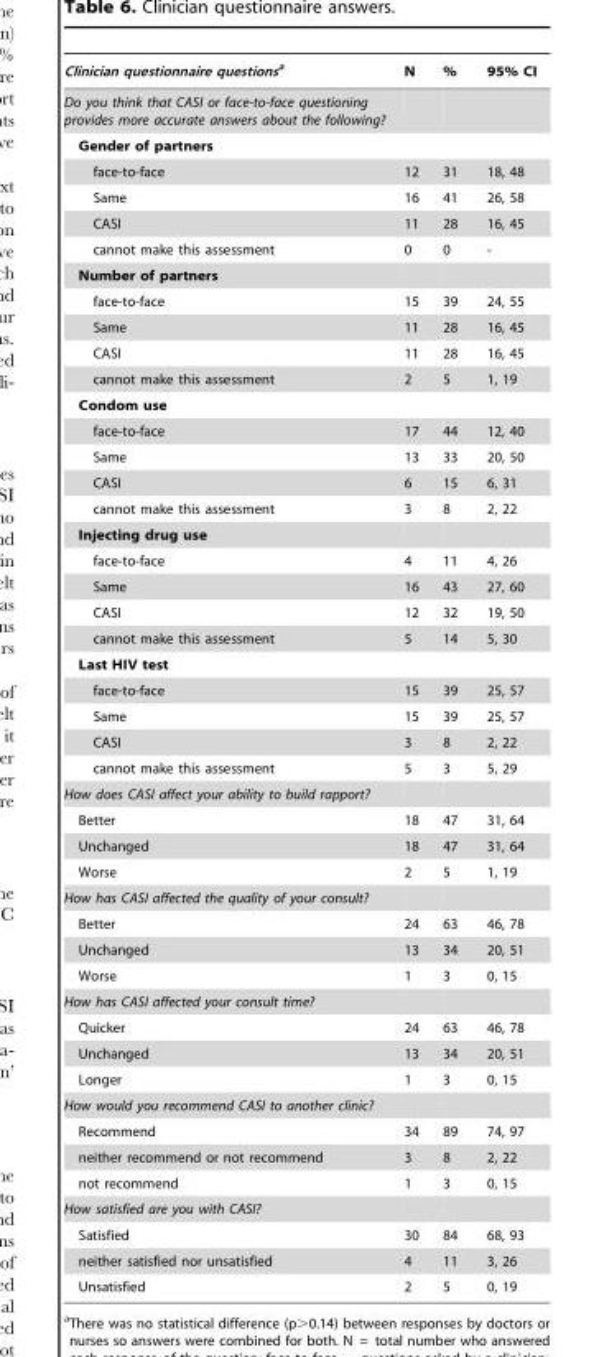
<table><thead><tr><td>Clinician questionnaire questionsa</td><td>N</td><td>%</td><td>95% CI</td></tr></thead><tbody><tr><td colspan="4">Do you think that CASI or face-to-face questioning provides more accurate answers about the following?</td></tr><tr><td colspan="4">Gender of partners</td></tr><tr><td>face-to-face</td><td>12</td><td>31</td><td>18, 48</td></tr><tr><td>Same</td><td>16</td><td>41</td><td>26, 58</td></tr><tr><td>CASI</td><td>11</td><td>28</td><td>16, 45</td></tr><tr><td>cannot make this assessment</td><td>0</td><td>0</td><td>-</td></tr><tr><td colspan="4">Number of partners</td></tr><tr><td>face-to-face</td><td>15</td><td>39</td><td>24, 55</td></tr><tr><td>Same</td><td>11</td><td>28</td><td>16, 45</td></tr><tr><td>CASI</td><td>11</td><td>28</td><td>16, 45</td></tr><tr><td>cannot make this assessment</td><td>2</td><td>5</td><td>1, 19</td></tr><tr><td colspan="4">Condom use</td></tr><tr><td>face-to-face</td><td>17</td><td>44</td><td>12, 40</td></tr><tr><td>Same</td><td>13</td><td>33</td><td>20, 50</td></tr><tr><td>CASI</td><td>6</td><td>15</td><td>6, 31</td></tr><tr><td>cannot make this assessment</td><td>3</td><td>8</td><td>2, 22</td></tr><tr><td colspan="4">Injecting drug use</td></tr><tr><td>face-to-face</td><td>4</td><td>11</td><td>4, 26</td></tr><tr><td>Same</td><td>16</td><td>43</td><td>27, 60</td></tr><tr><td>CASI</td><td>12</td><td>32</td><td>19, 50</td></tr><tr><td>cannot make this assessment</td><td>5</td><td>14</td><td>5, 30</td></tr><tr><td colspan="4">Last HIV test</td></tr><tr><td>face-to-face</td><td>15</td><td>39</td><td>25, 57</td></tr><tr><td>Same</td><td>15</td><td>39</td><td>25, 57</td></tr><tr><td>CASI</td><td>3</td><td>8</td><td>2, 22</td></tr><tr><td>cannot make this assessment</td><td>5</td><td>3</td><td>5, 29</td></tr><tr><td colspan="4">How does CASI affect your ability to build rapport?</td></tr><tr><td>Better</td><td>18</td><td>47</td><td>31, 64</td></tr><tr><td>Unchanged</td><td>18</td><td>47</td><td>31, 64</td></tr><tr><td>Worse</td><td>2</td><td>5</td><td>1, 19</td></tr><tr><td colspan="4">How has CASI affected the quality of your consult?</td></tr><tr><td>Better</td><td>24</td><td>63</td><td>46, 78</td></tr><tr><td>Unchanged</td><td>13</td><td>34</td><td>20, 51</td></tr><tr><td>Worse</td><td>1</td><td>3</td><td>0, 15</td></tr><tr><td colspan="4">How has CASI affected your consult time?</td></tr><tr><td>Quicker</td><td>24</td><td>63</td><td>46, 78</td></tr><tr><td>Unchanged</td><td>13</td><td>34</td><td>20, 51</td></tr><tr><td>Longer</td><td>1</td><td>3</td><td>0, 15</td></tr><tr><td colspan="4">How would you recommend CASI to another clinic?</td></tr><tr><td>Recommend</td><td>34</td><td>89</td><td>74, 97</td></tr><tr><td>neither recommend or not recommend</td><td>3</td><td>8</td><td>2, 22</td></tr><tr><td>not recommend</td><td>1</td><td>3</td><td>0, 15</td></tr><tr><td colspan="4">How satisfied are you with CASI?</td></tr><tr><td>Satisfied</td><td>30</td><td>84</td><td>68, 93</td></tr><tr><td>neither satisfied nor unsatisfied</td><td>4</td><td>11</td><td>3, 26</td></tr><tr><td>Unsatisfied</td><td>2</td><td>5</td><td>0, 19</td></tr></tbody></table>